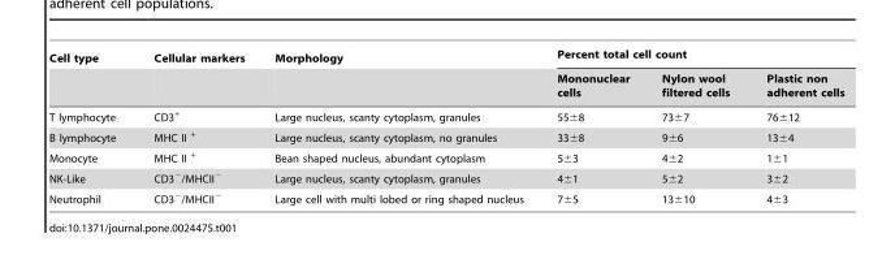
<table><thead><tr><td rowspan="2">Cell type</td><td rowspan="2">Cellular markers</td><td rowspan="2">Morphology</td><td colspan="3">Percent total cell count</td></tr><tr><td>Mononuclear cells</td><td>Nylon wool filtered cells</td><td>Plastic non adherent cells</td></tr></thead><tbody><tr><td>T lymphocyte</td><td>CD3<sup>+</sup></td><td>Large nucleus, scanty cytoplasm, granules</td><td>55±8</td><td>73±7</td><td>76±12</td></tr><tr><td>B lymphocyte</td><td>MHC II <sup>+</sup></td><td>Large nucleus, scanty cytoplasm, no granules</td><td>33±8</td><td>9±6</td><td>13±4</td></tr><tr><td>Monocyte</td><td>MHC II <sup>+</sup></td><td>Bean shaped nucleus, abundant cytoplasm</td><td>5±3</td><td>4±2</td><td>1±1</td></tr><tr><td>NK-Like</td><td>CD3<sup>−</sup>/MHCII<sup>−</sup></td><td>Large nucleus, scanty cytoplasm, granules</td><td>4±1</td><td>5±2</td><td>3±2</td></tr><tr><td>Neutrophil</td><td>CD3<sup>−</sup>/MHCII<sup>−</sup></td><td>Large cell with multi lobed or ring shaped nucleus</td><td>7±5</td><td>13±10</td><td>4±3</td></tr></tbody></table>